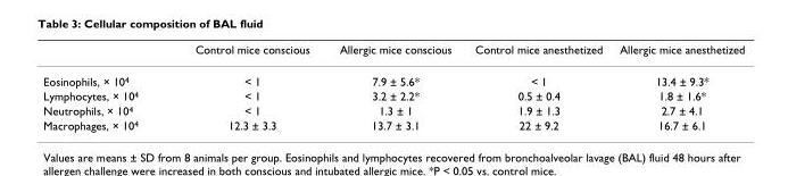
<table><thead><tr><td></td><td>Control mice conscious</td><td>Allergic mice conscious</td><td>Control mice anesthetized</td><td>Allergic mice anesthetized</td></tr></thead><tbody><tr><td>Eosinophils, × 10<sup>4</sup></td><td>&lt; 1</td><td>7.9 ± 5.6*</td><td>&lt; 1</td><td>13.4 ± 9.3*</td></tr><tr><td>Lymphocytes, × 10<sup>4</sup></td><td>&lt; 1</td><td>3.2 ± 2.2*</td><td>0.5 ± 0.4</td><td>1.8 ± 1.6*</td></tr><tr><td>Neutrophils, × 10<sup>4</sup></td><td>&lt; 1</td><td>1.3 ± 1</td><td>1.9 ± 1.3</td><td>2.7 ± 4.1</td></tr><tr><td>Macrophages, × 10<sup>4</sup></td><td>12.3 ± 3.3</td><td>13.7 ± 3.1</td><td>22 ± 9.2</td><td>16.7 ± 6.1</td></tr></tbody></table>